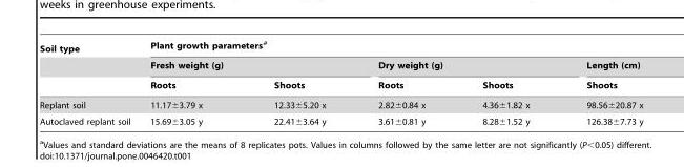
<table><thead><tr><td rowspan="3">Soil type</td><td colspan="5">Plant growth parameters<sup>a</sup></td></tr><tr><td colspan="2">Fresh weight (g)</td><td colspan="2">Dry weight (g)</td><td rowspan="2">Length (cm) Shoots</td></tr><tr><td>Roots</td><td>Shoots</td><td>Roots</td><td>Shoots</td></tr></thead><tbody><tr><td>Replant soil</td><td>11.17±3.79 x</td><td>12.33±5.20 x</td><td>2.82±0.84 x</td><td>4.36±1.82 x</td><td>98.56±20.87 x</td></tr><tr><td>Autoclaved replant soil</td><td>15.69±3.05 y</td><td>22.41±3.64 y</td><td>3.61±0.81 y</td><td>8.28±1.52 y</td><td>126.38±7.73 y</td></tr></tbody></table>